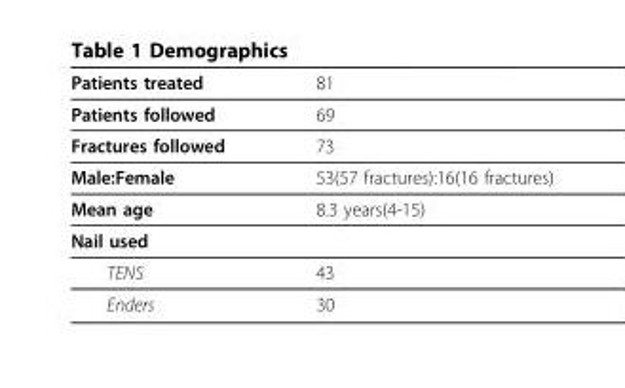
<table><thead><tr><td>Patients treated</td><td>81</td></tr></thead><tbody><tr><td>Patients followed</td><td>69</td></tr><tr><td>Fractures followed</td><td>73</td></tr><tr><td>Male:Female</td><td>53(57 fractures):16(16 fractures)</td></tr><tr><td>Mean age</td><td>8.3 years(4-15)</td></tr><tr><td colspan="2">Nail used</td></tr><tr><td>TENS</td><td>43</td></tr><tr><td>Enders</td><td>30</td></tr></tbody></table>